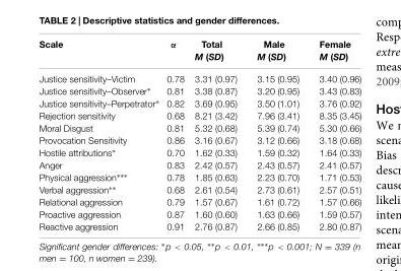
<table><thead><tr><td>Scale</td><td>α</td><td>Total M (SD)</td><td>Male M (SD)</td><td>Female M (SD)</td></tr></thead><tbody><tr><td>Justice sensitivity–Victim Justice sensitivity–Observer∗ Justice sensitivity–Perpetrator∗ Rejection sensitivity Moral Disgust Provocation Sensitivity Hostile attributions∗ Anger Physical aggression∗∗∗ Verbal aggression∗∗ Relational aggression Proactive aggression Reactive aggression</td><td>0.78 0.81 0.82 0.68 0.81 0.86 0.70 0.83 0.78 0.68 0.79 0.87 0.91</td><td>3.31 (0.97) 3.38 (0.87) 3.69 (0.95) 8.21 (3.42) 5.32 (0.68) 3.16 (0.67) 1.62 (0.33) 2.42 (0.57) 1.85 (0.63) 2.61 (0.54) 1.57 (0.67) 1.60 (0.60) 2.76 (0.87)</td><td>3.15 (0.95) 3.20 (0.95) 3.50 (1.01) 7.96 (3.41) 5.39 (0.74) 3.12 (0.66) 1.59 (0.32) 2.43 (0.57) 2.23 (0.70) 2.73 (0.61) 1.61 (0.72) 1.63 (0.66) 2.66 (0.85)</td><td>3.40 (0.96) 3.43 (0.83) 3.76 (0.92) 8.35 (3.45) 5.30 (0.66) 3.18 (0.68) 1.64 (0.33) 2.41 (0.57) 1.71 (0.53) 2.57 (0.51) 1.57 (0.66) 1.59 (0.57) 2.80 (0.87)</td></tr></tbody></table>